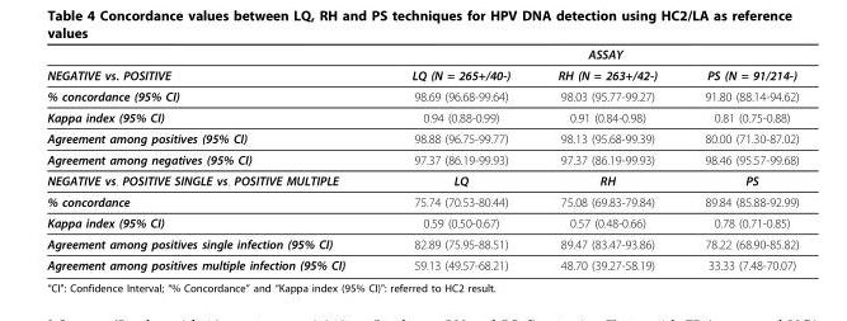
<table><thead><tr><td rowspan="2">NEGATIVE vs. POSITIVE</td><td colspan="3">ASSAY</td></tr><tr><td>LQ (N = 265+/40-)</td><td>RH (N = 263+/42-)</td><td>PS (N = 91/214-)</td></tr></thead><tbody><tr><td>% concordance (95% CI)</td><td>98.69 (96.68-99.64)</td><td>98.03 (95.77-99.27)</td><td>91.80 (88.14-94.62)</td></tr><tr><td>Kappa index (95% CI)</td><td>0.94 (0.88-0.99)</td><td>0.91 (0.84-0.98)</td><td>0.81 (0.75-0.88)</td></tr><tr><td>Agreement among positives (95% CI)</td><td>98.88 (96.75-99.77)</td><td>98.13 (95.68-99.39)</td><td>80.00 (71.30-87.02)</td></tr><tr><td>Agreement among negatives (95% CI)</td><td>97.37 (86.19-99.93)</td><td>97.37 (86.19-99.93)</td><td>98.46 (95.57-99.68)</td></tr><tr><td>NEGATIVE vs. POSITIVE SINGLE vs. POSITIVE MULTIPLE</td><td>LQ</td><td>RH</td><td>PS</td></tr><tr><td>% concordance</td><td>75.74 (70.53-80.44)</td><td>75.08 (69.83-79.84)</td><td>89.84 (85.88-92.99)</td></tr><tr><td>Kappa index (95% CI)</td><td>0.59 (0.50-0.67)</td><td>0.57 (0.48-0.66)</td><td>0.78 (0.71-0.85)</td></tr><tr><td>Agreement among positives single infection (95% CI)</td><td>82.89 (75.95-88.51)</td><td>89.47 (83.47-93.86)</td><td>78.22 (68.90-85.82)</td></tr><tr><td>Agreement among positives multiple infection (95% CI)</td><td>59.13 (49.57-68.21)</td><td>48.70 (39.27-58.19)</td><td>33.33 (7.48-70.07)</td></tr></tbody></table>